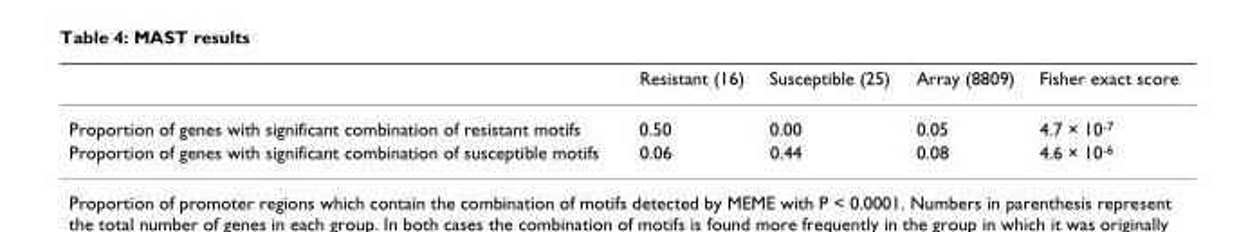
<table><thead><tr><td></td><td>Resistant (16)</td><td>Susceptible (25)</td><td>Array (8809)</td><td>Fisher exact score</td></tr></thead><tbody><tr><td>Proportion of genes with significant combination of resistant motifs</td><td>0.50</td><td>0.00</td><td>0.05</td><td>4.7 × 10-7</td></tr><tr><td>Proportion of genes with significant combination of susceptible motifs</td><td>0.06</td><td>0.44</td><td>0.08</td><td>4.6 × 10-6</td></tr></tbody></table>